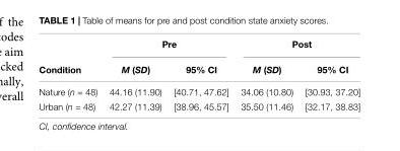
<table><thead><tr><td rowspan="2">Condition</td><td colspan="2">Pre</td><td colspan="2">Post</td></tr><tr><td>M (SD)</td><td>95% CI</td><td>M (SD)</td><td>95% CI</td></tr></thead><tbody><tr><td>Nature (n = 48)</td><td>44.16 (11.90)</td><td>[40.71, 47.62]</td><td>34.06 (10.80)</td><td>[30.93, 37.20]</td></tr><tr><td>Urban (n = 48)</td><td>42.27 (11.39)</td><td>[38.96, 45.57]</td><td>35.50 (11.46)</td><td>[32.17, 38.83]</td></tr></tbody></table>